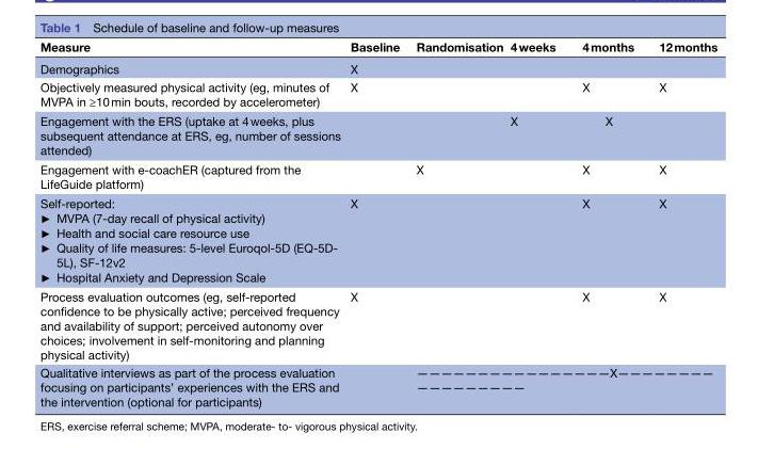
<table><thead><tr><td>Measure</td><td>Baseline</td><td>Randomisation</td><td>4 weeks</td><td>4 months</td><td>12 months</td></tr></thead><tbody><tr><td>Demographics</td><td>X</td><td></td><td></td><td></td><td></td></tr><tr><td>Objectively measured physical activity (eg, minutes of MVPA in ≥10 min bouts, recorded by accelerometer)</td><td>X</td><td></td><td></td><td>X</td><td>X</td></tr><tr><td>Engagement with the ERS (uptake at 4 weeks, plus subsequent attendance at ERS, eg, number of sessions attended)</td><td></td><td></td><td colspan="3">X X</td></tr><tr><td>Engagement with e-coachER (captured from the LifeGuide platform)</td><td></td><td>X</td><td></td><td>X</td><td>X</td></tr><tr><td>Self-reported: ► MVPA (7-day recall of physical activity) ► Health and social care resource use ► Quality of life measures: 5-level Euroqol-5D (EQ-5D- 5L), SF-12v2 ► Hospital Anxiety and Depression Scale</td><td>X</td><td></td><td></td><td>X</td><td>X</td></tr><tr><td>Process evaluation outcomes (eg, self-reported confidence to be physically active; perceived frequency and availability of support; perceived autonomy over choices; involvement in self-monitoring and planning physical activity)</td><td>X</td><td></td><td></td><td>X</td><td>X</td></tr><tr><td>Qualitative interviews as part of the process evaluation focusing on participants’ experiences with the ERS and the intervention (optional for participants)</td><td></td><td colspan="4">————————————————X———————— —————————</td></tr></tbody></table>